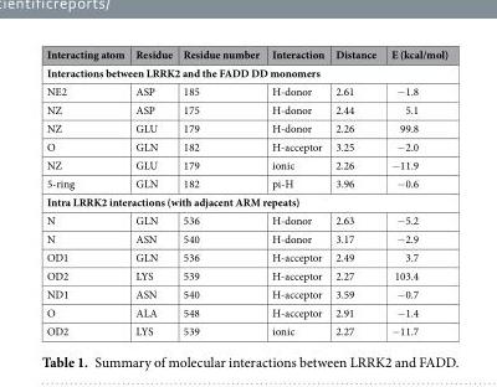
<table><thead><tr><td>Interacting atom</td><td>Residue</td><td>Residue number</td><td>Interaction</td><td>Distance</td><td>E (kcal/mol)</td></tr></thead><tbody><tr><td colspan="6">Interactions between LRRK2 and the FADD DD monomers</td></tr><tr><td>NE2</td><td>ASP</td><td>185</td><td>H-donor</td><td>2.61</td><td>−1.8</td></tr><tr><td>NZ</td><td>ASP</td><td>175</td><td>H-donor</td><td>2.44</td><td>5.1</td></tr><tr><td>NZ</td><td>GLU</td><td>179</td><td>H-donor</td><td>2.26</td><td>99.8</td></tr><tr><td>O</td><td>GLN</td><td>182</td><td>H-acceptor</td><td>3.25</td><td>−2.0</td></tr><tr><td>NZ</td><td>GLU</td><td>179</td><td>ionic</td><td>2.26</td><td>−11.9</td></tr><tr><td>5-ring</td><td>GLN</td><td>182</td><td>pi-H</td><td>3.96</td><td>−0.6</td></tr><tr><td colspan="6">Intra LRRK2 interactions (with adjacent ARM repeats)</td></tr><tr><td>N</td><td>GLN</td><td>536</td><td>H-donor</td><td>2.63</td><td>−5.2</td></tr><tr><td>N</td><td>ASN</td><td>540</td><td>H-donor</td><td>3.17</td><td>−2.9</td></tr><tr><td>OD1</td><td>GLN</td><td>536</td><td>H-acceptor</td><td>2.49</td><td>3.7</td></tr><tr><td>OD2</td><td>LYS</td><td>539</td><td>H-acceptor</td><td>2.27</td><td>103.4</td></tr><tr><td>ND1</td><td>ASN</td><td>540</td><td>H-acceptor</td><td>3.59</td><td>−0.7</td></tr><tr><td>O</td><td>ALA</td><td>548</td><td>H-acceptor</td><td>2.91</td><td>−1.4</td></tr><tr><td>OD2</td><td>LYS</td><td>539</td><td>ionic</td><td>2.27</td><td>−11.7</td></tr></tbody></table>